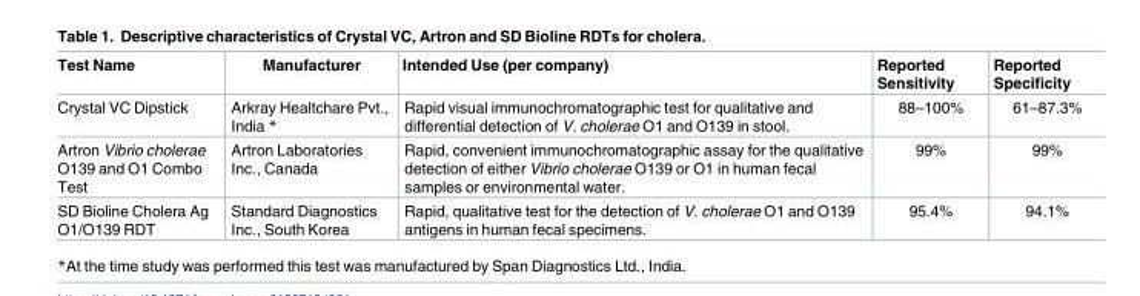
<table><thead><tr><td>Test Name</td><td>Manufacturer</td><td>Intended Use (per company)</td><td>Reported Sensitivity</td><td>Reported Specificity</td></tr></thead><tbody><tr><td>Crystal VC Dipstick</td><td>Arkray Healtchare Pvt., India *</td><td>Rapid visual immunochromatographic test for qualitative and differential detection of V. cholerae O1 and O139 in stool.</td><td>88–100%</td><td>61–87.3%</td></tr><tr><td>Artron Vibrio cholerae O139 and O1 Combo Test</td><td>Artron Laboratories Inc., Canada</td><td>Rapid, convenient immunochromatographic assay for the qualitative detection of either Vibrio cholerae O139 or O1 in human fecal samples or environmental water.</td><td>99%</td><td>99%</td></tr><tr><td>SD Bioline Cholera Ag O1/O139 RDT</td><td>Standard Diagnostics Inc., South Korea</td><td>Rapid, qualitative test for the detection of V. cholerae O1 and O139 antigens in human fecal specimens.</td><td>95.4%</td><td>94.1%</td></tr></tbody></table>